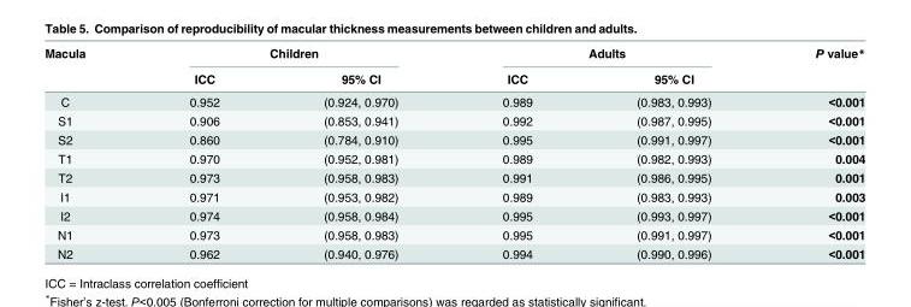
<table><thead><tr><td rowspan="2">Macula</td><td colspan="2">Children</td><td colspan="2">Adults</td><td rowspan="2">P value*</td></tr><tr><td>ICC</td><td>95% CI</td><td>ICC</td><td>95% CI</td></tr></thead><tbody><tr><td>C</td><td>0.952</td><td>(0.924, 0.970)</td><td>0.989</td><td>(0.983, 0.993)</td><td>&lt;0.001</td></tr><tr><td>S1</td><td>0.906</td><td>(0.853, 0.941)</td><td>0.992</td><td>(0.987, 0.995)</td><td>&lt;0.001</td></tr><tr><td>S2</td><td>0.860</td><td>(0.784, 0.910)</td><td>0.995</td><td>(0.991, 0.997)</td><td>&lt;0.001</td></tr><tr><td>T1</td><td>0.970</td><td>(0.952, 0.981)</td><td>0.989</td><td>(0.982, 0.993)</td><td>0.004</td></tr><tr><td>T2</td><td>0.973</td><td>(0.958, 0.983)</td><td>0.991</td><td>(0.986, 0.995)</td><td>0.001</td></tr><tr><td>I1</td><td>0.971</td><td>(0.953, 0.982)</td><td>0.989</td><td>(0.983, 0.993)</td><td>0.003</td></tr><tr><td>I2</td><td>0.974</td><td>(0.958, 0.984)</td><td>0.995</td><td>(0.993, 0.997)</td><td>&lt;0.001</td></tr><tr><td>N1</td><td>0.973</td><td>(0.958, 0.983)</td><td>0.995</td><td>(0.991, 0.997)</td><td>&lt;0.001</td></tr><tr><td>N2</td><td>0.962</td><td>(0.940, 0.976)</td><td>0.994</td><td>(0.990, 0.996)</td><td>&lt;0.001</td></tr></tbody></table>